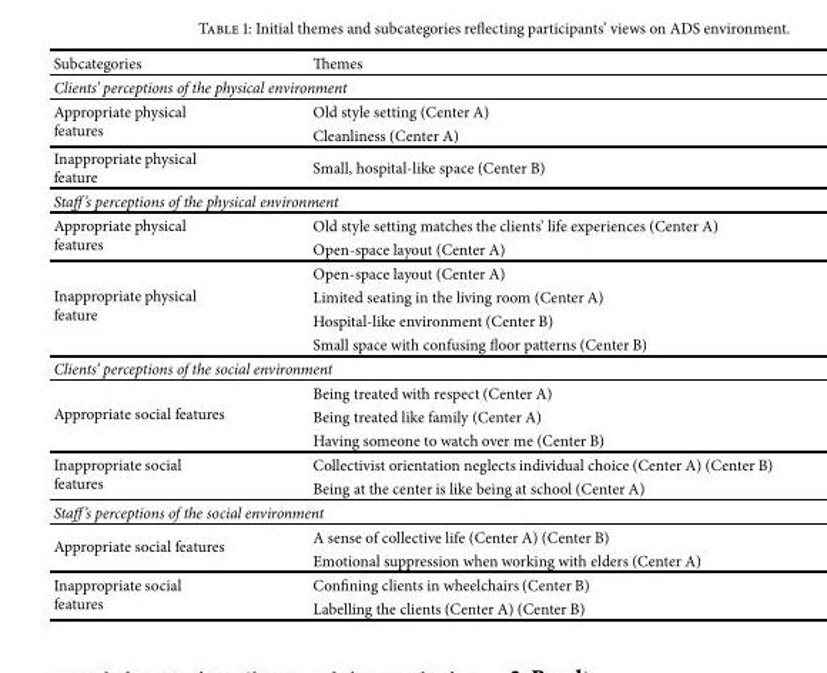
<table><thead><tr><td>Subcategories</td><td>Themes</td></tr></thead><tbody><tr><td colspan="2">Clients’ perceptions of the physical environment</td></tr><tr><td rowspan="2">Appropriate physical features</td><td>Old style setting (Center A)</td></tr><tr><td>Cleanliness (Center A)</td></tr><tr><td>Inappropriate physical feature</td><td>Small, hospital-like space (Center B)</td></tr><tr><td colspan="2">Staff’s perceptions of the physical environment</td></tr><tr><td rowspan="2">Appropriate physical features</td><td>Old style setting matches the clients’ life experiences (Center A)</td></tr><tr><td>Open-space layout (Center A)</td></tr><tr><td rowspan="4">Inappropriate physical feature</td><td>Open-space layout (Center A)</td></tr><tr><td>Limited seating in the living room (Center A)</td></tr><tr><td>Hospital-like environment (Center B)</td></tr><tr><td>Small space with confusing floor patterns (Center B)</td></tr><tr><td colspan="2">Clients’ perceptions of the social environment</td></tr><tr><td rowspan="3">Appropriate social features</td><td>Being treated with respect (Center A)</td></tr><tr><td>Being treated like family (Center A)</td></tr><tr><td>Having someone to watch over me (Center B)</td></tr><tr><td rowspan="2">Inappropriate social features</td><td>Collectivist orientation neglects individual choice (Center A) (Center B)</td></tr><tr><td>Being at the center is like being at school (Center A)</td></tr><tr><td colspan="2">Staff’s perceptions of the social environment</td></tr><tr><td rowspan="2">Appropriate social features</td><td>A sense of collective life (Center A) (Center B)</td></tr><tr><td>Emotional suppression when working with elders (Center A)</td></tr><tr><td rowspan="2">Inappropriate social features</td><td>Confining clients in wheelchairs (Center B)</td></tr><tr><td>Labelling the clients (Center A) (Center B)</td></tr></tbody></table>